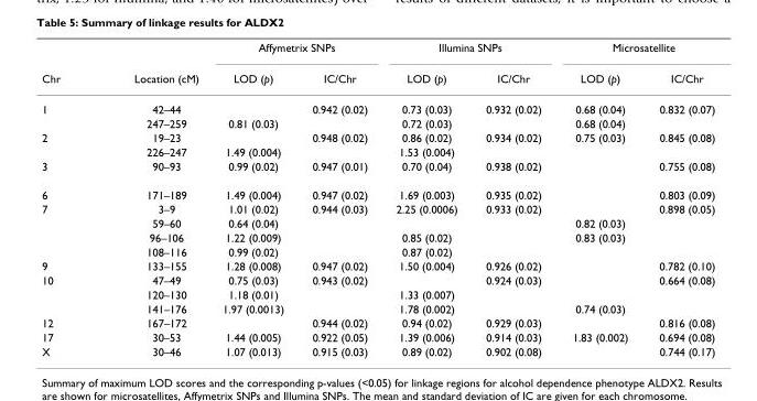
<table><thead><tr><td rowspan="2">Chr</td><td rowspan="2">Location (cM)</td><td colspan="2">Affymetrix SNPs</td><td colspan="2">Illumina SNPs</td><td colspan="2">Microsatellite</td></tr><tr><td>LOD (p)</td><td>IC/Chr</td><td>LOD (p)</td><td>IC/Chr</td><td>LOD (p)</td><td>IC/Chr</td></tr></thead><tbody><tr><td rowspan="2">1</td><td>42–44</td><td></td><td>0.942 (0.02)</td><td>0.73 (0.03)</td><td>0.932 (0.02)</td><td>0.68 (0.04)</td><td>0.832 (0.07)</td></tr><tr><td>247–259</td><td>0.81 (0.03)</td><td></td><td>0.72 (0.03)</td><td></td><td>0.68 (0.04)</td><td></td></tr><tr><td rowspan="2">2</td><td>19–23</td><td></td><td>0.948 (0.02)</td><td>0.86 (0.02)</td><td>0.934 (0.02)</td><td>0.75 (0.03)</td><td>0.845 (0.08)</td></tr><tr><td>226–247</td><td>1.49 (0.004)</td><td></td><td>1.53 (0.004)</td><td></td><td></td><td></td></tr><tr><td>3</td><td>90–93</td><td>0.99 (0.02)</td><td>0.947 (0.01)</td><td>0.70 (0.04)</td><td>0.938 (0.02)</td><td></td><td>0.755 (0.08)</td></tr><tr><td>6</td><td>171–189</td><td>1.49 (0.004)</td><td>0.947 (0.02)</td><td>1.69 (0.003)</td><td>0.935 (0.02)</td><td></td><td>0.803 (0.09)</td></tr><tr><td rowspan="4">7</td><td>3–9</td><td>1.01 (0.02)</td><td>0.944 (0.03)</td><td>2.25 (0.0006)</td><td>0.933 (0.02)</td><td></td><td>0.898 (0.05)</td></tr><tr><td>59–60</td><td>0.64 (0.04)</td><td></td><td></td><td></td><td>0.82 (0.03)</td><td></td></tr><tr><td>96–106</td><td>1.22 (0.009)</td><td></td><td>0.85 (0.02)</td><td></td><td>0.83 (0.03)</td><td></td></tr><tr><td>108–116</td><td>0.99 (0.02)</td><td></td><td>0.87 (0.02)</td><td></td><td></td><td></td></tr><tr><td>9</td><td>133–155</td><td>1.28 (0.008)</td><td>0.947 (0.02)</td><td>1.50 (0.004)</td><td>0.926 (0.02)</td><td></td><td>0.782 (0.10)</td></tr><tr><td rowspan="3">10</td><td>47–49</td><td>0.75 (0.03)</td><td>0.943 (0.02)</td><td></td><td>0.924 (0.03)</td><td></td><td>0.664 (0.08)</td></tr><tr><td>120–130</td><td>1.18 (0.01)</td><td></td><td>1.33 (0.007)</td><td></td><td></td><td></td></tr><tr><td>141–176</td><td>1.97 (0.0013)</td><td></td><td>1.78 (0.002)</td><td></td><td>0.74 (0.03)</td><td></td></tr><tr><td>12</td><td>167–172</td><td></td><td>0.944 (0.02)</td><td>0.94 (0.02)</td><td>0.929 (0.03)</td><td></td><td>0.816 (0.08)</td></tr><tr><td>17</td><td>30–53</td><td>1.44 (0.005)</td><td>0.922 (0.05)</td><td>1.39 (0.006)</td><td>0.914 (0.03)</td><td>1.83 (0.002)</td><td>0.694 (0.08)</td></tr><tr><td>X</td><td>30–46</td><td>1.07 (0.013)</td><td>0.915 (0.03)</td><td>0.89 (0.02)</td><td>0.902 (0.08)</td><td></td><td>0.744 (0.17)</td></tr></tbody></table>